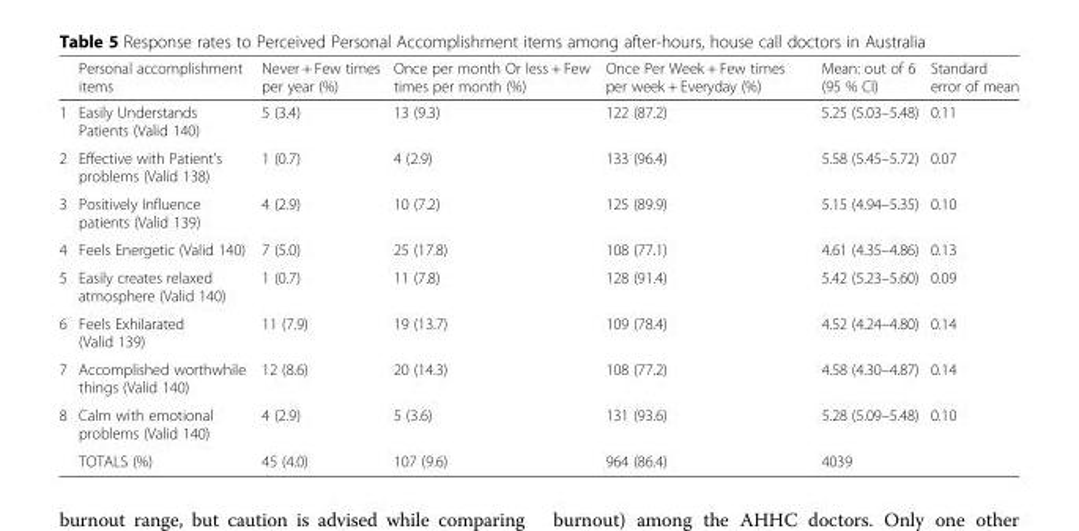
<table><thead><tr><td></td><td>Personal accomplishment items</td><td>Never + Few times per year (%)</td><td>Once per month Or less + Few times per month (%)</td><td>Once Per Week + Few times per week + Everyday (%)</td><td>Mean: out of 6 (95 % CI)</td><td>Standard error of mean</td></tr></thead><tbody><tr><td>1</td><td>Easily Understands Patients (Valid 140)</td><td>5 (3.4)</td><td>13 (9.3)</td><td>122 (87.2)</td><td>5.25 (5.03–5.48)</td><td>0.11</td></tr><tr><td>2</td><td>Effective with Patient’s problems (Valid 138)</td><td>1 (0.7)</td><td>4 (2.9)</td><td>133 (96.4)</td><td>5.58 (5.45–5.72)</td><td>0.07</td></tr><tr><td>3</td><td>Positively Influence patients (Valid 139)</td><td>4 (2.9)</td><td>10 (7.2)</td><td>125 (89.9)</td><td>5.15 (4.94–5.35)</td><td>0.10</td></tr><tr><td>4</td><td>Feels Energetic (Valid 140)</td><td>7 (5.0)</td><td>25 (17.8)</td><td>108 (77.1)</td><td>4.61 (4.35–4.86)</td><td>0.13</td></tr><tr><td>5</td><td>Easily creates relaxed atmosphere (Valid 140)</td><td>1 (0.7)</td><td>11 (7.8)</td><td>128 (91.4)</td><td>5.42 (5.23–5.60)</td><td>0.09</td></tr><tr><td>6</td><td>Feels Exhilarated (Valid 139)</td><td>11 (7.9)</td><td>19 (13.7)</td><td>109 (78.4)</td><td>4.52 (4.24–4.80)</td><td>0.14</td></tr><tr><td>7</td><td>Accomplished worthwhile things (Valid 140)</td><td>12 (8.6)</td><td>20 (14.3)</td><td>108 (77.2)</td><td>4.58 (4.30–4.87)</td><td>0.14</td></tr><tr><td rowspan="2">8</td><td>Calm with emotional problems (Valid 140)</td><td>4 (2.9)</td><td>5 (3.6)</td><td>131 (93.6)</td><td>5.28 (5.09–5.48)</td><td>0.10</td></tr><tr><td>TOTALS (%)</td><td>45 (4.0)</td><td>107 (9.6)</td><td>964 (86.4)</td><td>4039</td><td></td></tr></tbody></table>